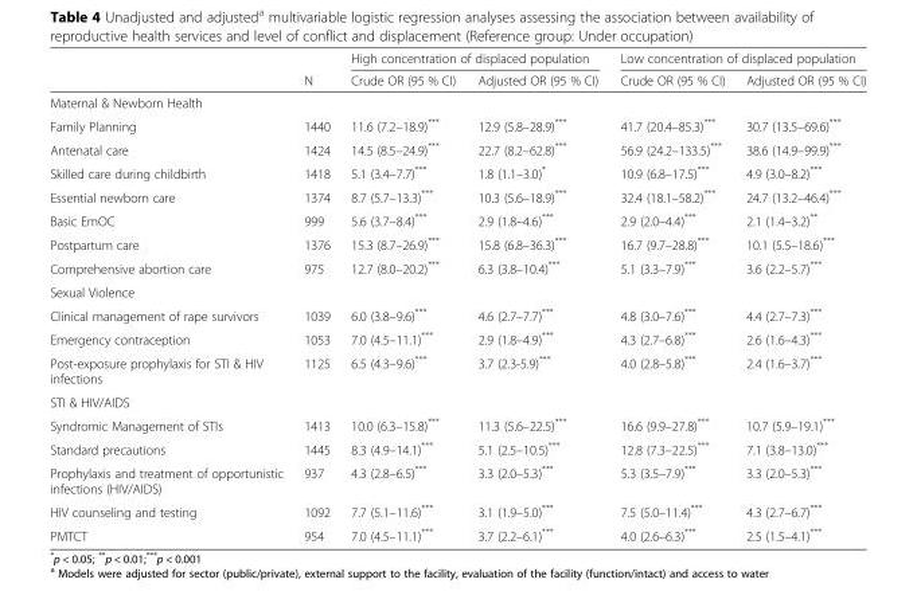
<table><thead><tr><td rowspan="2"></td><td rowspan="2">N</td><td colspan="2">High concentration of displaced population</td><td colspan="2">Low concentration of displaced population</td></tr><tr><td>Crude OR (95 % CI)</td><td>Adjusted OR (95 % CI)</td><td>Crude OR (95 % CI)</td><td>Adjusted OR (95 % CI)</td></tr></thead><tbody><tr><td colspan="6">Maternal &amp; Newborn Health</td></tr><tr><td>Family Planning</td><td>1440</td><td>11.6 (7.2–18.9)***</td><td>12.9 (5.8–28.9)***</td><td>41.7 (20.4–85.3)***</td><td>30.7 (13.5–69.6)***</td></tr><tr><td>Antenatal care</td><td>1424</td><td>14.5 (8.5–24.9)***</td><td>22.7 (8.2–62.8)***</td><td>56.9 (24.2–133.5)***</td><td>38.6 (14.9–99.9)***</td></tr><tr><td>Skilled care during childbirth</td><td>1418</td><td>5.1 (3.4–7.7)***</td><td>1.8 (1.1–3.0)*</td><td>10.9 (6.8–17.5)***</td><td>4.9 (3.0–8.2)***</td></tr><tr><td>Essential newborn care</td><td>1374</td><td>8.7 (5.7–13.3)***</td><td>10.3 (5.6–18.9)***</td><td>32.4 (18.1–58.2)***</td><td>24.7 (13.2–46.4)***</td></tr><tr><td>Basic EmOC</td><td>999</td><td>5.6 (3.7–8.4)***</td><td>2.9 (1.8–4.6)***</td><td>2.9 (2.0–4.4)***</td><td>2.1 (1.4–3.2)**</td></tr><tr><td>Postpartum care</td><td>1376</td><td>15.3 (8.7–26.9)***</td><td>15.8 (6.8–36.3)***</td><td>16.7 (9.7–28.8)***</td><td>10.1 (5.5–18.6)***</td></tr><tr><td>Comprehensive abortion care</td><td>975</td><td>12.7 (8.0–20.2)***</td><td>6.3 (3.8–10.4)***</td><td>5.1 (3.3–7.9)***</td><td>3.6 (2.2–5.7)***</td></tr><tr><td colspan="6">Sexual Violence</td></tr><tr><td>Clinical management of rape survivors</td><td>1039</td><td>6.0 (3.8–9.6)***</td><td>4.6 (2.7–7.7)***</td><td>4.8 (3.0–7.6)***</td><td>4.4 (2.7–7.3)***</td></tr><tr><td>Emergency contraception</td><td>1053</td><td>7.0 (4.5–11.1)***</td><td>2.9 (1.8–4.9)***</td><td>4.3 (2.7–6.8)***</td><td>2.6 (1.6–4.3)***</td></tr><tr><td>Post-exposure prophylaxis for STI &amp; HIV infections</td><td>1125</td><td>6.5 (4.3–9.6)***</td><td>3.7 (2.3-5.9)***</td><td>4.0 (2.8–5.8)***</td><td>2.4 (1.6–3.7)***</td></tr><tr><td colspan="6">STI &amp; HIV/AIDS</td></tr><tr><td>Syndromic Management of STIs</td><td>1413</td><td>10.0 (6.3–15.8)***</td><td>11.3 (5.6–22.5)***</td><td>16.6 (9.9–27.8)***</td><td>10.7 (5.9–19.1)***</td></tr><tr><td>Standard precautions</td><td>1445</td><td>8.3 (4.9–14.1)***</td><td>5.1 (2.5–10.5)***</td><td>12.8 (7.3–22.5)***</td><td>7.1 (3.8–13.0)***</td></tr><tr><td>Prophylaxis and treatment of opportunistic infections (HIV/AIDS)</td><td>937</td><td>4.3 (2.8–6.5)***</td><td>3.3 (2.0–5.3)***</td><td>5.3 (3.5–7.9)***</td><td>3.3 (2.0–5.3)***</td></tr><tr><td>HIV counseling and testing</td><td>1092</td><td>7.7 (5.1–11.6)***</td><td>3.1 (1.9–5.0)***</td><td>7.5 (5.0–11.4)***</td><td>4.3 (2.7–6.7)***</td></tr><tr><td>PMTCT</td><td>954</td><td>7.0 (4.5–11.1)***</td><td>3.7 (2.2–6.1)***</td><td>4.0 (2.6–6.3)***</td><td>2.5 (1.5–4.1)***</td></tr></tbody></table>